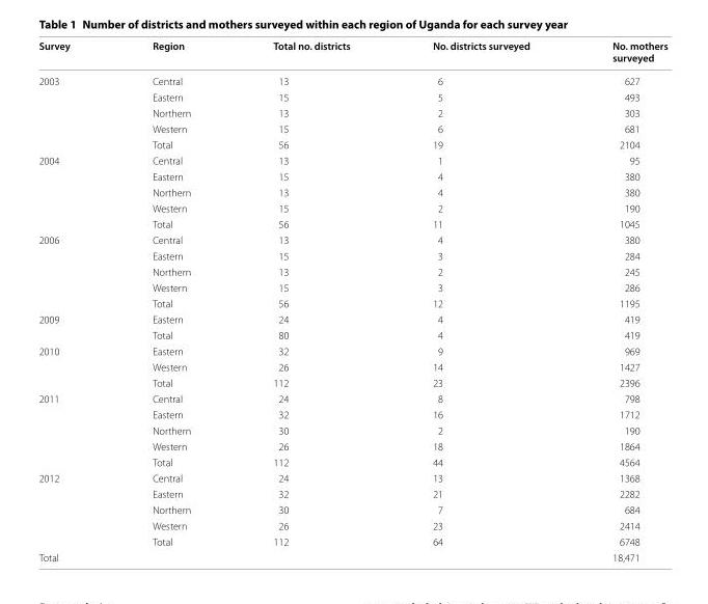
<table><thead><tr><td>Survey</td><td>Region</td><td>Total no. districts</td><td>No. districts surveyed</td><td>No. mothers surveyed</td></tr></thead><tbody><tr><td rowspan="5">2003</td><td>Central</td><td>13</td><td>6</td><td>627</td></tr><tr><td>Eastern</td><td>15</td><td>5</td><td>493</td></tr><tr><td>Northern</td><td>13</td><td>2</td><td>303</td></tr><tr><td>Western</td><td>15</td><td>6</td><td>681</td></tr><tr><td>Total</td><td>56</td><td>19</td><td>2104</td></tr><tr><td rowspan="5">2004</td><td>Central</td><td>13</td><td>1</td><td>95</td></tr><tr><td>Eastern</td><td>15</td><td>4</td><td>380</td></tr><tr><td>Northern</td><td>13</td><td>4</td><td>380</td></tr><tr><td>Western</td><td>15</td><td>2</td><td>190</td></tr><tr><td>Total</td><td>56</td><td>11</td><td>1045</td></tr><tr><td rowspan="5">2006</td><td>Central</td><td>13</td><td>4</td><td>380</td></tr><tr><td>Eastern</td><td>15</td><td>3</td><td>284</td></tr><tr><td>Northern</td><td>13</td><td>2</td><td>245</td></tr><tr><td>Western</td><td>15</td><td>3</td><td>286</td></tr><tr><td>Total</td><td>56</td><td>12</td><td>1195</td></tr><tr><td rowspan="2">2009</td><td>Eastern</td><td>24</td><td>4</td><td>419</td></tr><tr><td>Total</td><td>80</td><td>4</td><td>419</td></tr><tr><td rowspan="3">2010</td><td>Eastern</td><td>32</td><td>9</td><td>969</td></tr><tr><td>Western</td><td>26</td><td>14</td><td>1427</td></tr><tr><td>Total</td><td>112</td><td>23</td><td>2396</td></tr><tr><td rowspan="5">2011</td><td>Central</td><td>24</td><td>8</td><td>798</td></tr><tr><td>Eastern</td><td>32</td><td>16</td><td>1712</td></tr><tr><td>Northern</td><td>30</td><td>2</td><td>190</td></tr><tr><td>Western</td><td>26</td><td>18</td><td>1864</td></tr><tr><td>Total</td><td>112</td><td>44</td><td>4564</td></tr><tr><td rowspan="5">2012</td><td>Central</td><td>24</td><td>13</td><td>1368</td></tr><tr><td>Eastern</td><td>32</td><td>21</td><td>2282</td></tr><tr><td>Northern</td><td>30</td><td>7</td><td>684</td></tr><tr><td>Western</td><td>26</td><td>23</td><td>2414</td></tr><tr><td>Total</td><td>112</td><td>64</td><td>6748</td></tr><tr><td>Total</td><td></td><td></td><td></td><td>18,471</td></tr></tbody></table>